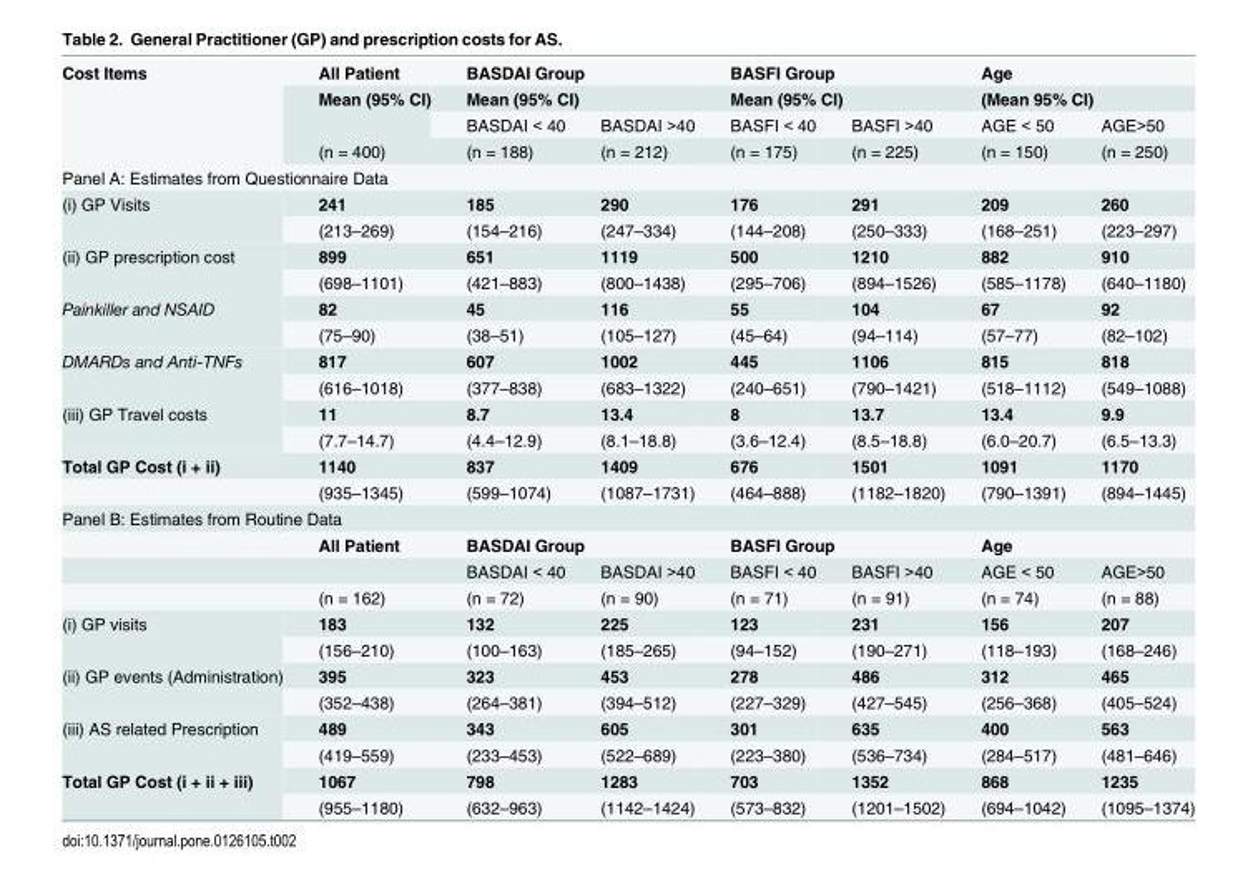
<table><tbody><tr><td rowspan="4">Cost Items</td><td>All Patient</td><td colspan="2">BASDAI Group</td><td colspan="2">BASFI Group</td><td colspan="2">Age</td></tr><tr><td rowspan="2">Mean (95% CI)</td><td colspan="2">Mean (95% CI)</td><td colspan="2">Mean (95% CI)</td><td colspan="2">(Mean 95% CI)</td></tr><tr><td>BASDAI &lt; 40</td><td>BASDAI &gt;40</td><td>BASFI &lt; 40</td><td>BASFI &gt;40</td><td>AGE &lt; 50</td><td>AGE&gt;50</td></tr><tr><td>(n = 400)</td><td>(n = 188)</td><td>(n = 212)</td><td>(n = 175)</td><td>(n = 225)</td><td>(n = 150)</td><td>(n = 250)</td></tr><tr><td colspan="8">Panel A: Estimates from Questionnaire Data</td></tr><tr><td rowspan="2">(i) GP Visits</td><td>241</td><td>185</td><td>290</td><td>176</td><td>291</td><td>209</td><td>260</td></tr><tr><td>(213–269)</td><td>(154–216)</td><td>(247–334)</td><td>(144–208)</td><td>(250–333)</td><td>(168–251)</td><td>(223–297)</td></tr><tr><td rowspan="2">(ii) GP prescription cost</td><td>899</td><td>651</td><td>1119</td><td>500</td><td>1210</td><td>882</td><td>910</td></tr><tr><td>(698–1101)</td><td>(421–883)</td><td>(800–1438)</td><td>(295–706)</td><td>(894–1526)</td><td>(585–1178)</td><td>(640–1180)</td></tr><tr><td rowspan="2">Painkiller and NSAID</td><td>82</td><td>45</td><td>116</td><td>55</td><td>104</td><td>67</td><td>92</td></tr><tr><td>(75–90)</td><td>(38–51)</td><td>(105–127)</td><td>(45–64)</td><td>(94–114)</td><td>(57–77)</td><td>(82–102)</td></tr><tr><td rowspan="2">DMARDs and Anti-TNFs</td><td>817</td><td>607</td><td>1002</td><td>445</td><td>1106</td><td>815</td><td>818</td></tr><tr><td>(616–1018)</td><td>(377–838)</td><td>(683–1322)</td><td>(240–651)</td><td>(790–1421)</td><td>(518–1112)</td><td>(549–1088)</td></tr><tr><td rowspan="2">(iii) GP Travel costs</td><td>11</td><td>8.7</td><td>13.4</td><td>8</td><td>13.7</td><td>13.4</td><td>9.9</td></tr><tr><td>(7.7–14.7)</td><td>(4.4–12.9)</td><td>(8.1–18.8)</td><td>(3.6–12.4)</td><td>(8.5–18.8)</td><td>(6.0–20.7)</td><td>(6.5–13.3)</td></tr><tr><td rowspan="2">Total GP Cost (i + ii)</td><td>1140</td><td>837</td><td>1409</td><td>676</td><td>1501</td><td>1091</td><td>1170</td></tr><tr><td>(935–1345)</td><td>(599–1074)</td><td>(1087–1731)</td><td>(464–888)</td><td>(1182–1820)</td><td>(790–1391)</td><td>(894–1445)</td></tr><tr><td colspan="8">Panel B: Estimates from Routine Data</td></tr><tr><td></td><td>All Patient</td><td colspan="2">BASDAI Group</td><td colspan="2">BASFI Group</td><td colspan="2">Age</td></tr><tr><td></td><td></td><td>BASDAI &lt; 40</td><td>BASDAI &gt;40</td><td>BASFI &lt; 40</td><td>BASFI &gt;40</td><td>AGE &lt; 50</td><td>AGE&gt;50</td></tr><tr><td></td><td>(n = 162)</td><td>(n = 72)</td><td>(n = 90)</td><td>(n = 71)</td><td>(n = 91)</td><td>(n = 74)</td><td>(n = 88)</td></tr><tr><td rowspan="2">(i) GP visits</td><td>183</td><td>132</td><td>225</td><td>123</td><td>231</td><td>156</td><td>207</td></tr><tr><td>(156–210)</td><td>(100–163)</td><td>(185–265)</td><td>(94–152)</td><td>(190–271)</td><td>(118–193)</td><td>(168–246)</td></tr><tr><td rowspan="2">(ii) GP events (Administration)</td><td>395</td><td>323</td><td>453</td><td>278</td><td>486</td><td>312</td><td>465</td></tr><tr><td>(352–438)</td><td>(264–381)</td><td>(394–512)</td><td>(227–329)</td><td>(427–545)</td><td>(256–368)</td><td>(405–524)</td></tr><tr><td rowspan="2">(iii) AS related Prescription</td><td>489</td><td>343</td><td>605</td><td>301</td><td>635</td><td>400</td><td>563</td></tr><tr><td>(419–559)</td><td>(233–453)</td><td>(522–689)</td><td>(223–380)</td><td>(536–734)</td><td>(284–517)</td><td>(481–646)</td></tr><tr><td rowspan="2">Total GP Cost (i + ii + iii)</td><td>1067</td><td>798</td><td>1283</td><td>703</td><td>1352</td><td>868</td><td>1235</td></tr><tr><td>(955–1180)</td><td>(632–963)</td><td>(1142–1424)</td><td>(573–832)</td><td>(1201–1502)</td><td>(694–1042)</td><td>(1095–1374)</td></tr></tbody></table>